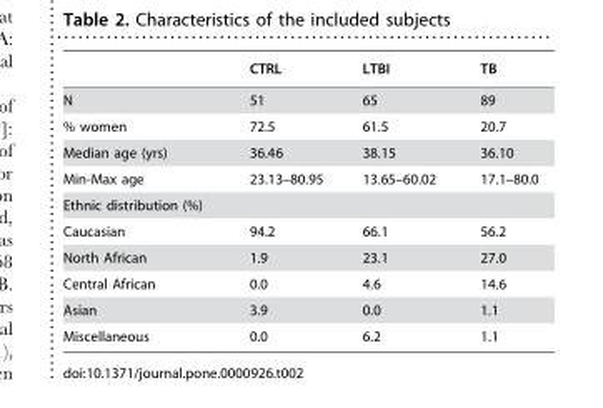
<table><thead><tr><td></td><td>CTRL</td><td>LTBI</td><td>TB</td></tr></thead><tbody><tr><td>N</td><td>51</td><td>65</td><td>89</td></tr><tr><td>% women</td><td>72.5</td><td>61.5</td><td>20.7</td></tr><tr><td>Median age (yrs)</td><td>36.46</td><td>38.15</td><td>36.10</td></tr><tr><td>Min-Max age</td><td>23.13–80.95</td><td>13.65–60.02</td><td>17.1–80.0</td></tr><tr><td colspan="4">Ethnic distribution (%)</td></tr><tr><td>Caucasian</td><td>94.2</td><td>66.1</td><td>56.2</td></tr><tr><td>North African</td><td>1.9</td><td>23.1</td><td>27.0</td></tr><tr><td>Central African</td><td>0.0</td><td>4.6</td><td>14.6</td></tr><tr><td>Asian</td><td>3.9</td><td>0.0</td><td>1.1</td></tr><tr><td>Miscellaneous</td><td>0.0</td><td>6.2</td><td>1.1</td></tr></tbody></table>